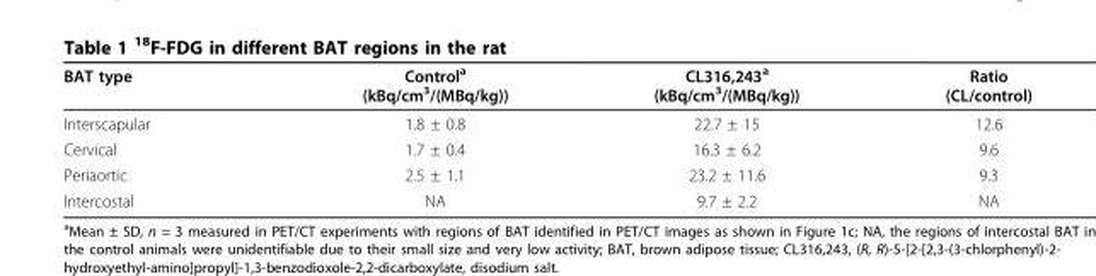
<table><thead><tr><td>BAT type</td><td>Control<sup>a</sup> (kBq/cm<sup>3</sup>/(MBq/kg))</td><td>CL316,243<sup>a</sup> (kBq/cm<sup>3</sup>/(MBq/kg))</td><td>Ratio (CL/control)</td></tr></thead><tbody><tr><td>Interscapular</td><td>1.8 ± 0.8</td><td>22.7 ± 15</td><td>12.6</td></tr><tr><td>Cervical</td><td>1.7 ± 0.4</td><td>16.3 ± 6.2</td><td>9.6</td></tr><tr><td>Periaortic</td><td>2.5 ± 1.1</td><td>23.2 ± 11.6</td><td>9.3</td></tr><tr><td>Intercostal</td><td>NA</td><td>9.7 ± 2.2</td><td>NA</td></tr></tbody></table>